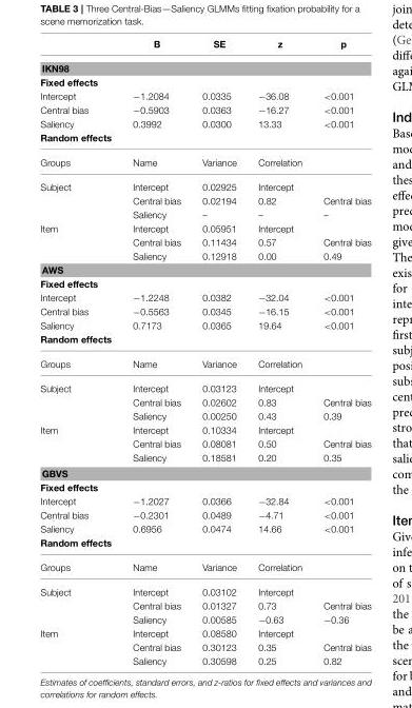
<table><thead><tr><td></td><td>B</td><td>SE</td><td>z</td><td>p</td></tr></thead><tbody><tr><td colspan="5">IKN98</td></tr><tr><td colspan="5">Fixed effects</td></tr><tr><td>Intercept</td><td>−1.2084</td><td>0.0335</td><td>−36.08</td><td>&lt;0.001</td></tr><tr><td>Central bias</td><td>−0.5903</td><td>0.0363</td><td>−16.27</td><td>&lt;0.001</td></tr><tr><td>Saliency</td><td>0.3992</td><td>0.0300</td><td>13.33</td><td>&lt;0.001</td></tr><tr><td colspan="5">Random effects</td></tr><tr><td>Groups</td><td>Name</td><td>Variance</td><td>Correlation</td><td></td></tr><tr><td rowspan="3">Subject</td><td>Intercept</td><td>0.02925</td><td>Intercept</td><td></td></tr><tr><td>Central bias</td><td>0.02194</td><td>0.82</td><td>Central bias</td></tr><tr><td>Saliency</td><td>–</td><td>–</td><td>–</td></tr><tr><td rowspan="3">Item</td><td>Intercept</td><td>0.05951</td><td>Intercept</td><td></td></tr><tr><td>Central bias</td><td>0.11434</td><td>0.57</td><td>Central bias</td></tr><tr><td>Saliency</td><td>0.12918</td><td>0.00</td><td>0.49</td></tr><tr><td colspan="5">AWS</td></tr><tr><td colspan="5">Fixed effects</td></tr><tr><td>Intercept</td><td>−1.2248</td><td>0.0382</td><td>−32.04</td><td>&lt;0.001</td></tr><tr><td>Central bias</td><td>−0.5563</td><td>0.0345</td><td>−16.15</td><td>&lt;0.001</td></tr><tr><td>Saliency</td><td>0.7173</td><td>0.0365</td><td>19.64</td><td>&lt;0.001</td></tr><tr><td colspan="5">Random effects</td></tr><tr><td>Groups</td><td>Name</td><td>Variance</td><td>Correlation</td><td></td></tr><tr><td rowspan="3">Subject</td><td>Intercept</td><td>0.03123</td><td>Intercept</td><td></td></tr><tr><td>Central bias</td><td>0.02602</td><td>0.83</td><td>Central bias</td></tr><tr><td>Saliency</td><td>0.00250</td><td>0.43</td><td>0.39</td></tr><tr><td rowspan="3">Item</td><td>Intercept</td><td>0.10334</td><td>Intercept</td><td></td></tr><tr><td>Central bias</td><td>0.08081</td><td>0.50</td><td>Central bias</td></tr><tr><td>Saliency</td><td>0.18581</td><td>0.20</td><td>0.35</td></tr><tr><td colspan="5">GBVS</td></tr><tr><td colspan="5">Fixed effects</td></tr><tr><td>Intercept</td><td>−1.2027</td><td>0.0366</td><td>−32.84</td><td>&lt;0.001</td></tr><tr><td>Central bias</td><td>−0.2301</td><td>0.0489</td><td>−4.71</td><td>&lt;0.001</td></tr><tr><td>Saliency</td><td>0.6956</td><td>0.0474</td><td>14.66</td><td>&lt;0.001</td></tr><tr><td colspan="5">Random effects</td></tr><tr><td>Groups</td><td>Name</td><td>Variance</td><td>Correlation</td><td></td></tr><tr><td rowspan="3">Subject</td><td>Intercept</td><td>0.03102</td><td>Intercept</td><td></td></tr><tr><td>Central bias</td><td>0.01327</td><td>0.73</td><td>Central bias</td></tr><tr><td>Saliency</td><td>0.00585</td><td>−0.63</td><td>−0.36</td></tr><tr><td rowspan="3">Item</td><td>Intercept</td><td>0.08580</td><td>Intercept</td><td></td></tr><tr><td>Central bias</td><td>0.30123</td><td>0.35</td><td>Central bias</td></tr><tr><td>Saliency</td><td>0.30598</td><td>0.25</td><td>0.82</td></tr></tbody></table>